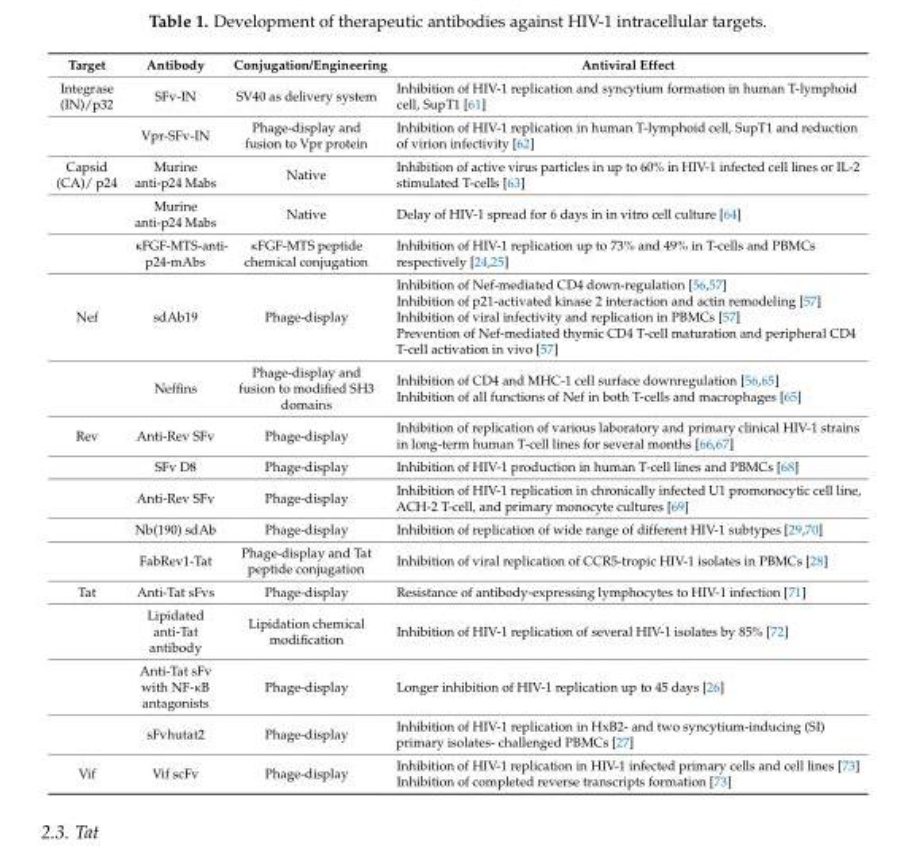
<table><thead><tr><td>Target</td><td>Antibody</td><td>Conjugation/Engineering</td><td>Antiviral Effect</td></tr></thead><tbody><tr><td rowspan="2">Integrase (IN)/p32</td><td>SFv-IN</td><td>SV40 as delivery system</td><td>Inhibition of HIV-1 replication and syncytium formation in human T-lymphoid cell, SupT1 [61]</td></tr><tr><td>Vpr-SFv-IN</td><td>Phage-display and fusion to Vpr protein</td><td>Inhibition of HIV-1 replication in human T-lymphoid cell, SupT1 and reduction of virion infectivity [62]</td></tr><tr><td rowspan="3">Capsid (CA)/ p24</td><td>Murine anti-p24 Mabs</td><td>Native</td><td>Inhibition of active virus particles in up to 60% in HIV-1 infected cell lines or IL-2 stimulated T-cells [63]</td></tr><tr><td>Murine anti-p24 Mabs</td><td>Native</td><td>Delay of HIV-1 spread for 6 days in in vitro cell culture [64]</td></tr><tr><td>κFGF-MTS-anti- p24-mAbs</td><td>κFGF-MTS peptide chemical conjugation</td><td>Inhibition of HIV-1 replication up to 73% and 49% in T-cells and PBMCs respectively [24,25]</td></tr><tr><td rowspan="2">Nef</td><td>sdAb19</td><td>Phage-display</td><td>Inhibition of Nef-mediated CD4 down-regulation [56,57] Inhibition of p21-activated kinase 2 interaction and actin remodeling [57] Inhibition of viral infectivity and replication in PBMCs [57] Prevention of Nef-mediated thymic CD4 T-cell maturation and peripheral CD4 T-cell activation in vivo [57]</td></tr><tr><td>Neffins</td><td>Phage-display and fusion to modified SH3 domains</td><td>Inhibition of CD4 and MHC-1 cell surface downregulation [56,65] Inhibition of all functions of Nef in both T-cells and macrophages [65]</td></tr><tr><td rowspan="5">Rev</td><td>Anti-Rev SFv</td><td>Phage-display</td><td>Inhibition of replication of various laboratory and primary clinical HIV-1 strains in long-term human T-cell lines for several months [66,67]</td></tr><tr><td>SFv D8</td><td>Phage-display</td><td>Inhibition of HIV-1 production in human T-cell lines and PBMCs [68]</td></tr><tr><td>Anti-Rev SFv</td><td>Phage-display</td><td>Inhibition of HIV-1 replication in chronically infected U1 promonocytic cell line, ACH-2 T-cell, and primary monocyte cultures [69]</td></tr><tr><td>Nb(190) sdAb</td><td>Phage-display</td><td>Inhibition of replication of wide range of different HIV-1 subtypes [29,70]</td></tr><tr><td>FabRev1-Tat</td><td>Phage-display and Tat peptide conjugation</td><td>Inhibition of viral replication of CCR5-tropic HIV-1 isolates in PBMCs [28]</td></tr><tr><td rowspan="4">Tat</td><td>Anti-Tat sFvs</td><td>Phage-display</td><td>Resistance of antibody-expressing lymphocytes to HIV-1 infection [71]</td></tr><tr><td>Lipidated anti-Tat antibody</td><td>Lipidation chemical modification</td><td>Inhibition of HIV-1 replication of several HIV-1 isolates by 85% [72]</td></tr><tr><td>Anti-Tat sFv with NF-κB antagonists</td><td>Phage-display</td><td>Longer inhibition of HIV-1 replication up to 45 days [26]</td></tr><tr><td>sFvhutat2</td><td>Phage-display</td><td>Inhibition of HIV-1 replication in HxB2- and two syncytium-inducing (SI) primary isolates- challenged PBMCs [27]</td></tr><tr><td>Vif</td><td>Vif scFv</td><td>Phage-display</td><td>Inhibition of HIV-1 replication in HIV-1 infected primary cells and cell lines [73] Inhibition of completed reverse transcripts formation [73]</td></tr></tbody></table>